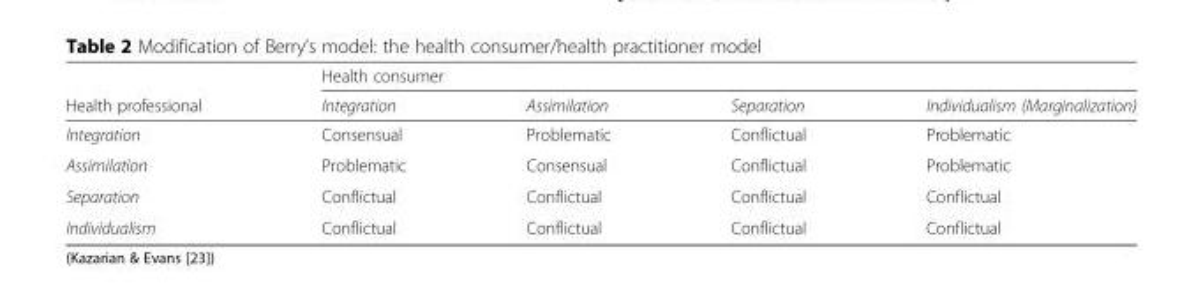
<table><thead><tr><td rowspan="2">Health professional</td><td colspan="4">Health consumer</td></tr><tr><td>Integration</td><td>Assimilation</td><td>Separation</td><td>Individualism (Marginalization)</td></tr></thead><tbody><tr><td>Integration</td><td>Consensual</td><td>Problematic</td><td>Conflictual</td><td>Problematic</td></tr><tr><td>Assimilation</td><td>Problematic</td><td>Consensual</td><td>Conflictual</td><td>Problematic</td></tr><tr><td>Separation</td><td>Conflictual</td><td>Conflictual</td><td>Conflictual</td><td>Conflictual</td></tr><tr><td>Individualism</td><td>Conflictual</td><td>Conflictual</td><td>Conflictual</td><td>Conflictual</td></tr></tbody></table>